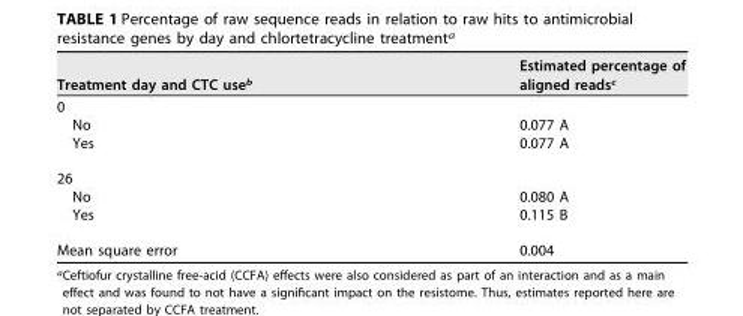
<table><thead><tr><td>Treatment day and CTC use<sup>b</sup></td><td>Estimated percentage of aligned reads<sup>c</sup></td></tr></thead><tbody><tr><td colspan="2">0</td></tr><tr><td>No</td><td>0.077 A</td></tr><tr><td>Yes</td><td>0.077 A</td></tr><tr><td colspan="2">26</td></tr><tr><td>No</td><td>0.080 A</td></tr><tr><td>Yes</td><td>0.115 B</td></tr><tr><td>Mean square error</td><td>0.004</td></tr></tbody></table>